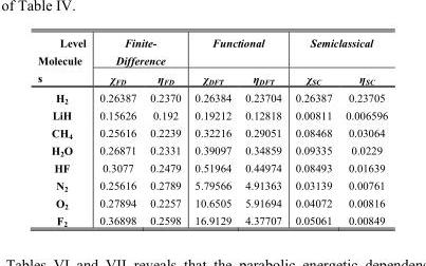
<table><thead><tr><td rowspan="2">Level Molecule s</td><td colspan="2">Finite- Difference</td><td colspan="2">Functional</td><td colspan="2">Semiclassical</td></tr><tr><td>χ<sub>FD</sub></td><td>η<sub>FD</sub></td><td>χ<sub>DFT</sub></td><td>η<sub>DFT</sub></td><td>χ<sub>SC</sub></td><td>η<sub>SC</sub></td></tr></thead><tbody><tr><td>H<sub>2</sub></td><td>0.26387</td><td>0.2370</td><td>0.26384</td><td>0.23704</td><td>0.26387</td><td>0.23705</td></tr><tr><td>LiH</td><td>0.15626</td><td>0.192</td><td>0.19212</td><td>0.12818</td><td>0.00811</td><td>0.006596</td></tr><tr><td>CH<sub>4</sub></td><td>0.25616</td><td>0.2239</td><td>0.32216</td><td>0.29051</td><td>0.08468</td><td>0.03064</td></tr><tr><td>H<sub>2</sub>O</td><td>0.26871</td><td>0.2331</td><td>0.39097</td><td>0.34859</td><td>0.09335</td><td>0.0229</td></tr><tr><td>HF</td><td>0.3077</td><td>0.2479</td><td>0.51964</td><td>0.44974</td><td>0.08493</td><td>0.01639</td></tr><tr><td>N<sub>2</sub></td><td>0.25616</td><td>0.2789</td><td>5.79566</td><td>4.91363</td><td>0.03139</td><td>0.00761</td></tr><tr><td>O<sub>2</sub></td><td>0.27894</td><td>0.2257</td><td>10.6505</td><td>5.91694</td><td>0.04072</td><td>0.00816</td></tr><tr><td>F<sub>2</sub></td><td>0.36898</td><td>0.2598</td><td>16.9129</td><td>4.37707</td><td>0.05061</td><td>0.00849</td></tr></tbody></table>